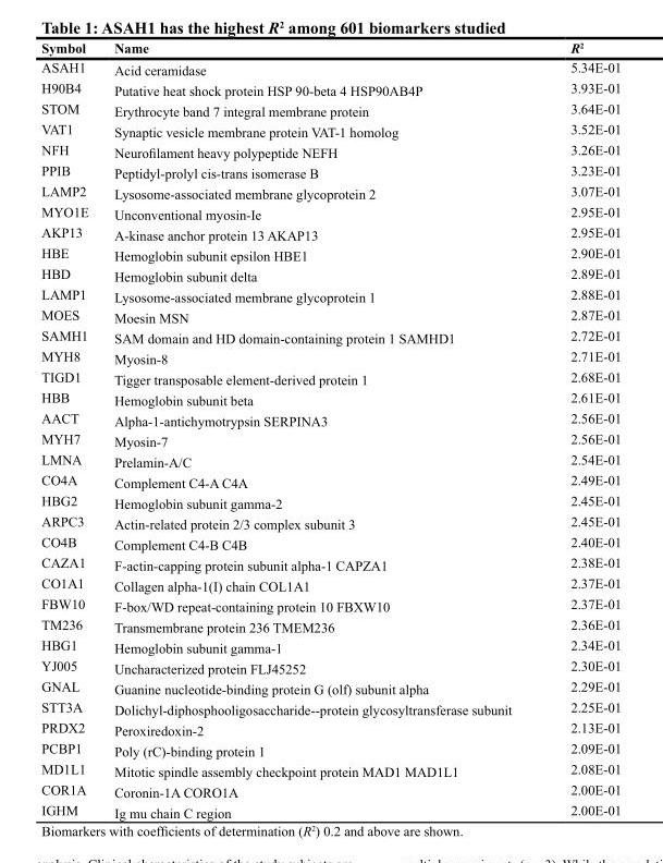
<table><thead><tr><td>Symbol</td><td>Name</td><td>R<sup>2</sup></td></tr></thead><tbody><tr><td>ASAH1</td><td>Acid ceramidase</td><td>5.34E-01</td></tr><tr><td>H90B4</td><td>Putative heat shock protein HSP 90-beta 4 HSP90AB4P</td><td>3.93E-01</td></tr><tr><td>STOM</td><td>Erythrocyte band 7 integral membrane protein</td><td>3.64E-01</td></tr><tr><td>VAT1</td><td>Synaptic vesicle membrane protein VAT-1 homolog</td><td>3.52E-01</td></tr><tr><td>NFH</td><td>Neurofilament heavy polypeptide NEFH</td><td>3.26E-01</td></tr><tr><td>PPIB</td><td>Peptidyl-prolyl cis-trans isomerase B</td><td>3.23E-01</td></tr><tr><td>LAMP2</td><td>Lysosome-associated membrane glycoprotein 2</td><td>3.07E-01</td></tr><tr><td>MYO1E</td><td>Unconventional myosin-Ie</td><td>2.95E-01</td></tr><tr><td>AKP13</td><td>A-kinase anchor protein 13 AKAP13</td><td>2.95E-01</td></tr><tr><td>HBE</td><td>Hemoglobin subunit epsilon HBE1</td><td>2.90E-01</td></tr><tr><td>HBD</td><td>Hemoglobin subunit delta</td><td>2.89E-01</td></tr><tr><td>LAMP1</td><td>Lysosome-associated membrane glycoprotein 1</td><td>2.88E-01</td></tr><tr><td>MOES</td><td>Moesin MSN</td><td>2.87E-01</td></tr><tr><td>SAMH1</td><td>SAM domain and HD domain-containing protein 1 SAMHD1</td><td>2.72E-01</td></tr><tr><td>MYH8</td><td>Myosin-8</td><td>2.71E-01</td></tr><tr><td>TIGD1</td><td>Tigger transposable element-derived protein 1</td><td>2.68E-01</td></tr><tr><td>HBB</td><td>Hemoglobin subunit beta</td><td>2.61E-01</td></tr><tr><td>AACT</td><td>Alpha-1-antichymotrypsin SERPINA3</td><td>2.56E-01</td></tr><tr><td>MYH7</td><td>Myosin-7</td><td>2.56E-01</td></tr><tr><td>LMNA</td><td>Prelamin-A/C</td><td>2.54E-01</td></tr><tr><td>CO4A</td><td>Complement C4-A C4A</td><td>2.49E-01</td></tr><tr><td>HBG2</td><td>Hemoglobin subunit gamma-2</td><td>2.45E-01</td></tr><tr><td>ARPC3</td><td>Actin-related protein 2/3 complex subunit 3</td><td>2.45E-01</td></tr><tr><td>CO4B</td><td>Complement C4-B C4B</td><td>2.40E-01</td></tr><tr><td>CAZA1</td><td>F-actin-capping protein subunit alpha-1 CAPZA1</td><td>2.38E-01</td></tr><tr><td>CO1A1</td><td>Collagen alpha-1(I) chain COL1A1</td><td>2.37E-01</td></tr><tr><td>FBW10</td><td>F-box/WD repeat-containing protein 10 FBXW10</td><td>2.37E-01</td></tr><tr><td>TM236</td><td>Transmembrane protein 236 TMEM236</td><td>2.36E-01</td></tr><tr><td>HBG1</td><td>Hemoglobin subunit gamma-1</td><td>2.34E-01</td></tr><tr><td>YJ005</td><td>Uncharacterized protein FLJ45252</td><td>2.30E-01</td></tr><tr><td>GNAL</td><td>Guanine nucleotide-binding protein G (olf) subunit alpha</td><td>2.29E-01</td></tr><tr><td>STT3A</td><td>Dolichyl-diphosphooligosaccharide--protein glycosyltransferase subunit</td><td>2.25E-01</td></tr><tr><td>PRDX2</td><td>Peroxiredoxin-2</td><td>2.13E-01</td></tr><tr><td>PCBP1</td><td>Poly (rC)-binding protein 1</td><td>2.09E-01</td></tr><tr><td>MD1L1</td><td>Mitotic spindle assembly checkpoint protein MAD1 MAD1L1</td><td>2.08E-01</td></tr><tr><td>COR1A</td><td>Coronin-1A CORO1A</td><td>2.00E-01</td></tr><tr><td>IGHM</td><td>Ig mu chain C region</td><td>2.00E-01</td></tr></tbody></table>